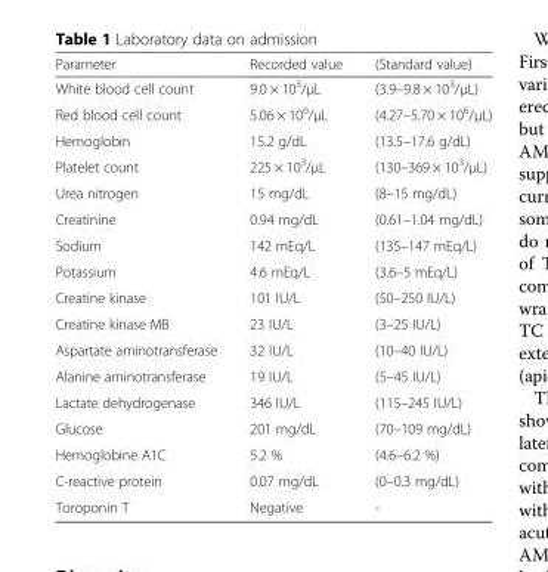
<table><thead><tr><td>Parameter</td><td>Recorded value</td><td>(Standard value)</td></tr></thead><tbody><tr><td>White blood cell count</td><td>9.0 × 10<sup>3</sup>/μL</td><td>(3.9–9.8 × 10<sup>3</sup>/μL)</td></tr><tr><td>Red blood cell count</td><td>5.06 × 10<sup>6</sup>/μL</td><td>(4.27–5.70 × 10<sup>6</sup>/μL)</td></tr><tr><td>Hemoglobin</td><td>15.2 g/dL</td><td>(13.5–17.6 g/dL)</td></tr><tr><td>Platelet count</td><td>225 × 10<sup>3</sup>/μL</td><td>(130–369 × 10<sup>3</sup>/μL)</td></tr><tr><td>Urea nitrogen</td><td>15 mg/dL</td><td>(8–15 mg/dL)</td></tr><tr><td>Creatinine</td><td>0.94 mg/dL</td><td>(0.61–1.04 mg/dL)</td></tr><tr><td>Sodium</td><td>142 mEq/L</td><td>(135–147 mEq/L)</td></tr><tr><td>Potassium</td><td>4.6 mEq/L</td><td>(3.6–5 mEq/L)</td></tr><tr><td>Creatine kinase</td><td>101 IU/L</td><td>(50–250 IU/L)</td></tr><tr><td>Creatine kinase MB</td><td>23 IU/L</td><td>(3–25 IU/L)</td></tr><tr><td>Aspartate aminotransferase</td><td>32 IU/L</td><td>(10–40 IU/L)</td></tr><tr><td>Alanine aminotransferase</td><td>19 IU/L</td><td>(5–45 IU/L)</td></tr><tr><td>Lactate dehydrogenase</td><td>346 IU/L</td><td>(115–245 IU/L)</td></tr><tr><td>Glucose</td><td>201 mg/dL</td><td>(70–109 mg/dL)</td></tr><tr><td>Hemoglobine A1C</td><td>5.2 %</td><td>(4.6–6.2 %)</td></tr><tr><td>C-reactive protein</td><td>0.07 mg/dL</td><td>(0–0.3 mg/dL)</td></tr><tr><td>Toroponin T</td><td>Negative</td><td>-</td></tr></tbody></table>